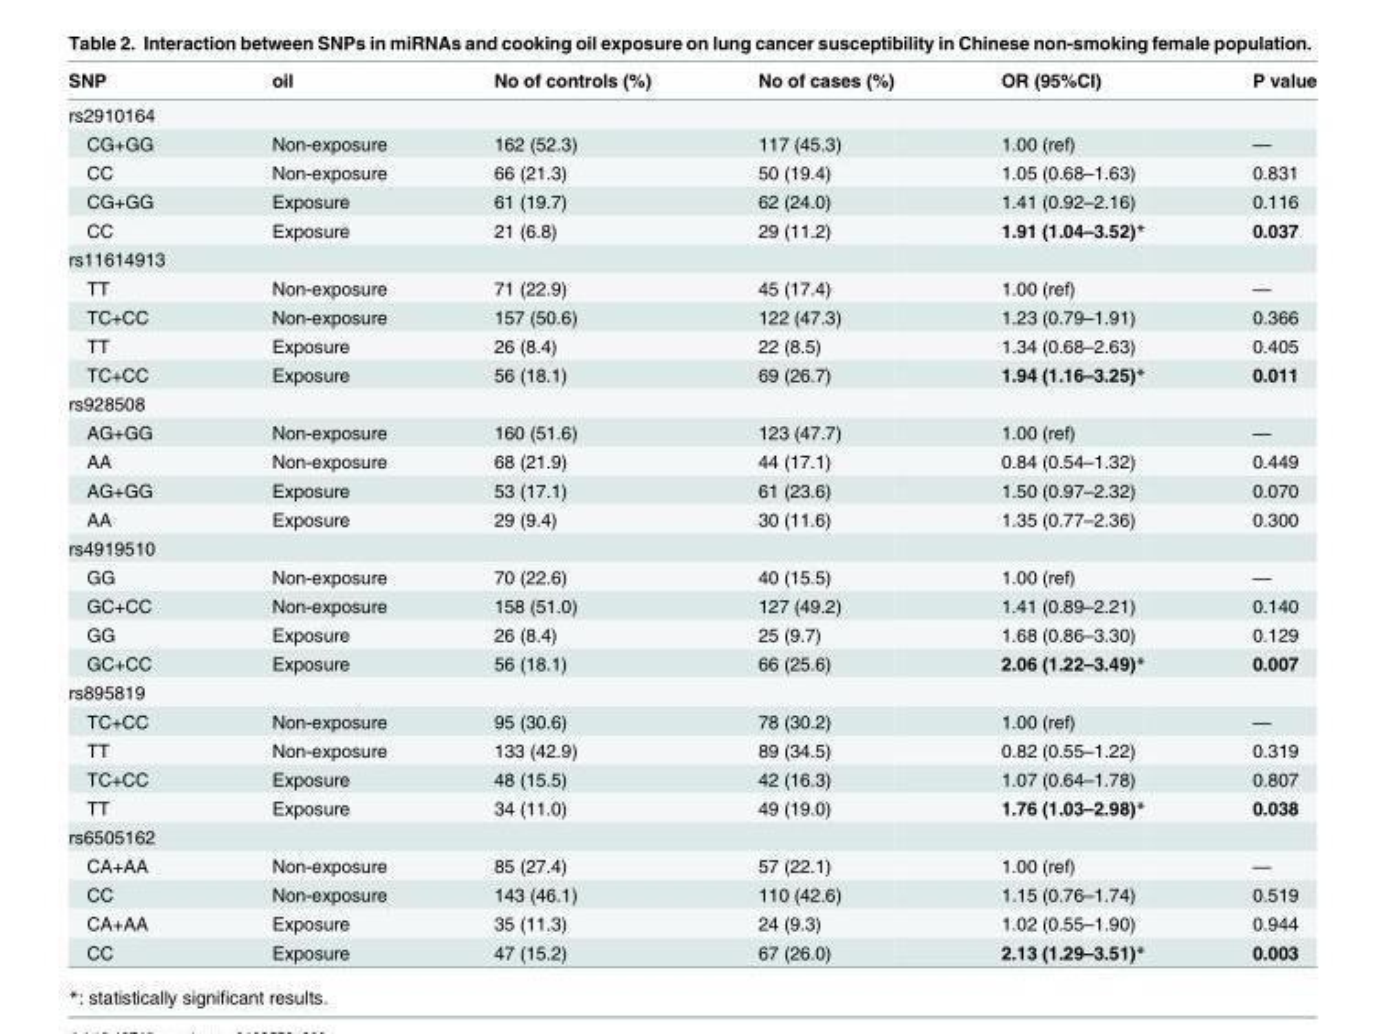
<table><thead><tr><td>SNP</td><td>oil</td><td>No of controls (%)</td><td>No of cases (%)</td><td>OR (95%CI)</td><td>P value</td></tr></thead><tbody><tr><td colspan="6">rs2910164</td></tr><tr><td>CG+GG</td><td>Non-exposure</td><td>162 (52.3)</td><td>117 (45.3)</td><td>1.00 (ref)</td><td>—</td></tr><tr><td>CC</td><td>Non-exposure</td><td>66 (21.3)</td><td>50 (19.4)</td><td>1.05 (0.68–1.63)</td><td>0.831</td></tr><tr><td>CG+GG</td><td>Exposure</td><td>61 (19.7)</td><td>62 (24.0)</td><td>1.41 (0.92–2.16)</td><td>0.116</td></tr><tr><td>CC</td><td>Exposure</td><td>21 (6.8)</td><td>29 (11.2)</td><td>1.91 (1.04–3.52)*</td><td>0.037</td></tr><tr><td colspan="6">rs11614913</td></tr><tr><td>TT</td><td>Non-exposure</td><td>71 (22.9)</td><td>45 (17.4)</td><td>1.00 (ref)</td><td>—</td></tr><tr><td>TC+CC</td><td>Non-exposure</td><td>157 (50.6)</td><td>122 (47.3)</td><td>1.23 (0.79–1.91)</td><td>0.366</td></tr><tr><td>TT</td><td>Exposure</td><td>26 (8.4)</td><td>22 (8.5)</td><td>1.34 (0.68–2.63)</td><td>0.405</td></tr><tr><td>TC+CC</td><td>Exposure</td><td>56 (18.1)</td><td>69 (26.7)</td><td>1.94 (1.16–3.25)*</td><td>0.011</td></tr><tr><td colspan="6">rs928508</td></tr><tr><td>AG+GG</td><td>Non-exposure</td><td>160 (51.6)</td><td>123 (47.7)</td><td>1.00 (ref)</td><td>—</td></tr><tr><td>AA</td><td>Non-exposure</td><td>68 (21.9)</td><td>44 (17.1)</td><td>0.84 (0.54–1.32)</td><td>0.449</td></tr><tr><td>AG+GG</td><td>Exposure</td><td>53 (17.1)</td><td>61 (23.6)</td><td>1.50 (0.97–2.32)</td><td>0.070</td></tr><tr><td>AA</td><td>Exposure</td><td>29 (9.4)</td><td>30 (11.6)</td><td>1.35 (0.77–2.36)</td><td>0.300</td></tr><tr><td colspan="6">rs4919510</td></tr><tr><td>GG</td><td>Non-exposure</td><td>70 (22.6)</td><td>40 (15.5)</td><td>1.00 (ref)</td><td>—</td></tr><tr><td>GC+CC</td><td>Non-exposure</td><td>158 (51.0)</td><td>127 (49.2)</td><td>1.41 (0.89–2.21)</td><td>0.140</td></tr><tr><td>GG</td><td>Exposure</td><td>26 (8.4)</td><td>25 (9.7)</td><td>1.68 (0.86–3.30)</td><td>0.129</td></tr><tr><td>GC+CC</td><td>Exposure</td><td>56 (18.1)</td><td>66 (25.6)</td><td>2.06 (1.22–3.49)*</td><td>0.007</td></tr><tr><td colspan="6">rs895819</td></tr><tr><td>TC+CC</td><td>Non-exposure</td><td>95 (30.6)</td><td>78 (30.2)</td><td>1.00 (ref)</td><td>—</td></tr><tr><td>TT</td><td>Non-exposure</td><td>133 (42.9)</td><td>89 (34.5)</td><td>0.82 (0.55–1.22)</td><td>0.319</td></tr><tr><td>TC+CC</td><td>Exposure</td><td>48 (15.5)</td><td>42 (16.3)</td><td>1.07 (0.64–1.78)</td><td>0.807</td></tr><tr><td>TT</td><td>Exposure</td><td>34 (11.0)</td><td>49 (19.0)</td><td>1.76 (1.03–2.98)*</td><td>0.038</td></tr><tr><td colspan="6">rs6505162</td></tr><tr><td>CA+AA</td><td>Non-exposure</td><td>85 (27.4)</td><td>57 (22.1)</td><td>1.00 (ref)</td><td>—</td></tr><tr><td>CC</td><td>Non-exposure</td><td>143 (46.1)</td><td>110 (42.6)</td><td>1.15 (0.76–1.74)</td><td>0.519</td></tr><tr><td>CA+AA</td><td>Exposure</td><td>35 (11.3)</td><td>24 (9.3)</td><td>1.02 (0.55–1.90)</td><td>0.944</td></tr><tr><td>CC</td><td>Exposure</td><td>47 (15.2)</td><td>67 (26.0)</td><td>2.13 (1.29–3.51)*</td><td>0.003</td></tr></tbody></table>